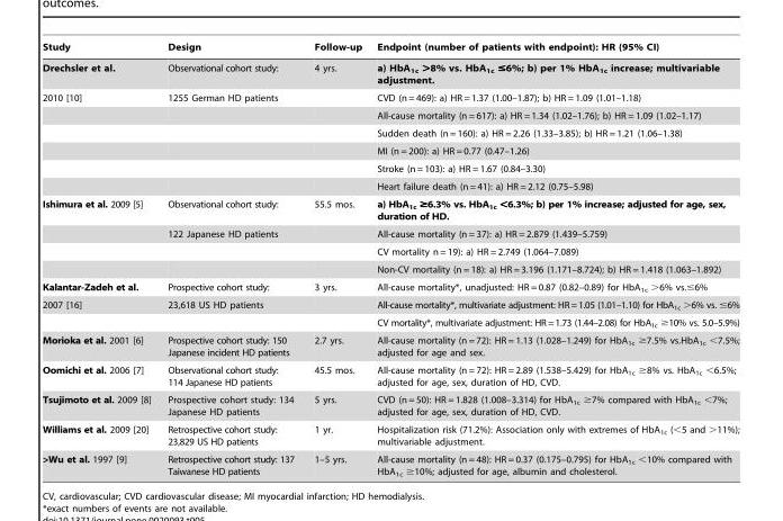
<table><thead><tr><td>Study</td><td>Design</td><td>Follow-up</td><td>Endpoint (number of patients with endpoint): HR (95% CI)</td></tr></thead><tbody><tr><td>Drechsler et al.</td><td>Observational cohort study:</td><td>4 yrs.</td><td>a) HbA<sub>1c</sub> &gt;8% vs. HbA<sub>1c</sub> ≤6%; b) per 1% HbA<sub>1c</sub> increase; multivariable adjustment.</td></tr><tr><td rowspan="6">2010 [10]</td><td>1255 German HD patients</td><td></td><td>CVD (n = 469): a) HR = 1.37 (1.00–1.87); b) HR = 1.09 (1.01–1.18)</td></tr><tr><td></td><td></td><td>All-cause mortality (n = 617): a) HR = 1.34 (1.02–1.76); b) HR = 1.09 (1.02–1.17)</td></tr><tr><td></td><td></td><td>Sudden death (n = 160): a) HR = 2.26 (1.33–3.85); b) HR = 1.21 (1.06–1.38)</td></tr><tr><td></td><td></td><td>MI (n = 200): a) HR = 0.77 (0.47–1.26)</td></tr><tr><td></td><td></td><td>Stroke (n = 103): a) HR = 1.67 (0.84–3.30)</td></tr><tr><td></td><td></td><td>Heart failure death (n = 41): a) HR = 2.12 (0.75–5.98)</td></tr><tr><td rowspan="4">Ishimura et al. 2009 [5]</td><td>Observational cohort study:</td><td>55.5 mos.</td><td>a) HbA<sub>1c</sub> ≥6.3% vs. HbA<sub>1c</sub> &lt;6.3%; b) per 1% increase; adjusted for age, sex, duration of HD.</td></tr><tr><td>122 Japanese HD patients</td><td></td><td>All-cause mortality (n = 37): a) HR = 2.879 (1.439–5.759)</td></tr><tr><td></td><td></td><td>CV mortality n = 19): a) HR = 2.749 (1.064–7.089)</td></tr><tr><td></td><td></td><td>Non-CV mortality (n = 18): a) HR = 3.196 (1.171–8.724); b) HR = 1.418 (1.063–1.892)</td></tr><tr><td>Kalantar-Zadeh et al.</td><td>Prospective cohort study:</td><td>3 yrs.</td><td>All-cause mortality*, unadjusted: HR = 0.87 (0.82–0.89) for HbA<sub>1c</sub> &gt;6% vs.≤6%</td></tr><tr><td rowspan="2">2007 [16]</td><td>23,618 US HD patients</td><td></td><td>All-cause mortality*, multivariate adjustment: HR=1.05 (1.01–1.10) for HbA<sub>1c</sub> &gt;6% vs. ≤6%</td></tr><tr><td></td><td></td><td>CV mortality*, multivariate adjustment: HR =1.73 (1.44–2.08) for HbA<sub>1c</sub> ≥10% vs. 5.0–5.9%)</td></tr><tr><td>Morioka et al. 2001 [6]</td><td>Prospective cohort study: 150 Japanese incident HD patients</td><td>2.7 yrs.</td><td>All-cause mortality (n = 72): HR = 1.13 (1.028–1.249) for HbA<sub>1c</sub> ≥7.5% vs.HbA<sub>1c</sub> &lt;7.5%; adjusted for age and sex.</td></tr><tr><td>Oomichi et al. 2006 [7]</td><td>Observational cohort study: 114 Japanese HD patients</td><td>45.5 mos.</td><td>All-cause mortality (n = 72): HR = 2.89 (1.538–5.429) for HbA<sub>1c</sub> ≥8% vs. HbA<sub>1c</sub> &lt;6.5%; adjusted for age, sex, duration of HD, CVD.</td></tr><tr><td>Tsujimoto et al. 2009 [8]</td><td>Prospective cohort study: 134 Japanese HD patients</td><td>5 yrs.</td><td>CVD (n = 50): HR = 1.828 (1.008–3.314) for HbA<sub>1c</sub> ≥7% compared with HbA<sub>1c</sub> &lt;7%; adjusted for age, sex, duration of HD, CVD.</td></tr><tr><td>Williams et al. 2009 [20]</td><td>Retrospective cohort study: 23,829 US HD patients</td><td>1 yr.</td><td>Hospitalization risk (71.2%): Association only with extremes of HbA<sub>1c</sub> (&lt;5 and &gt;11%); multivariable adjustment.</td></tr><tr><td>&gt;Wu et al. 1997 [9]</td><td>Retrospective cohort study: 137 Taiwanese HD patients</td><td>1–5 yrs.</td><td>All-cause mortality (n = 48): HR = 0.37 (0.175–0.795) for HbA<sub>1c</sub> &lt;10% compared with HbA<sub>1c</sub> ≥10%; adjusted for age, albumin and cholesterol.</td></tr></tbody></table>